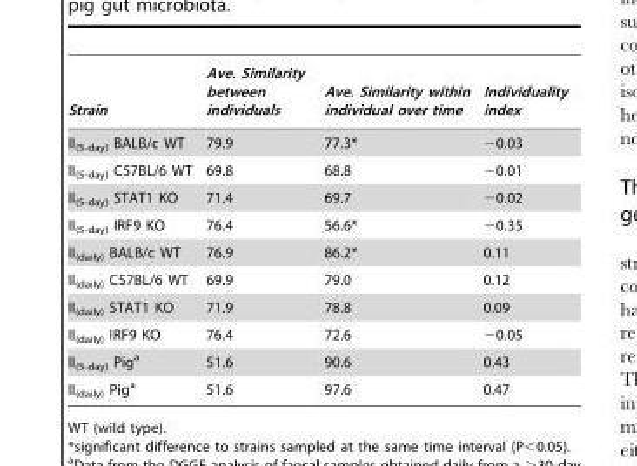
<table><thead><tr><td>Strain</td><td>Ave. Similarity between individuals</td><td>Ave. Similarity within individual over time</td><td>Individuality index</td></tr></thead><tbody><tr><td>II<sub>(5-day)</sub> BALB/c WT</td><td>79.9</td><td>77.3*</td><td>−0.03</td></tr><tr><td>II<sub>(5-day)</sub> C57BL/6 WT</td><td>69.8</td><td>68.8</td><td>−0.01</td></tr><tr><td>II<sub>(5-day)</sub> STAT1 KO</td><td>71.4</td><td>69.7</td><td>−0.02</td></tr><tr><td>II<sub>(5-day)</sub> IRF9 KO</td><td>76.4</td><td>56.6*</td><td>−0.35</td></tr><tr><td>II<sub>(daily)</sub> BALB/c WT</td><td>76.9</td><td>86.2*</td><td>0.11</td></tr><tr><td>II<sub>(daily)</sub> C57BL/6 WT</td><td>69.9</td><td>79.0</td><td>0.12</td></tr><tr><td>II<sub>(daily)</sub> STAT1 KO</td><td>71.9</td><td>78.8</td><td>0.09</td></tr><tr><td>II<sub>(daily)</sub> IRF9 KO</td><td>76.4</td><td>72.6</td><td>−0.05</td></tr><tr><td>II<sub>(5-day)</sub> Pig<sup>a</sup></td><td>51.6</td><td>90.6</td><td>0.43</td></tr><tr><td>II<sub>(daily)</sub> Pig<sup>a</sup></td><td>51.6</td><td>97.6</td><td>0.47</td></tr></tbody></table>